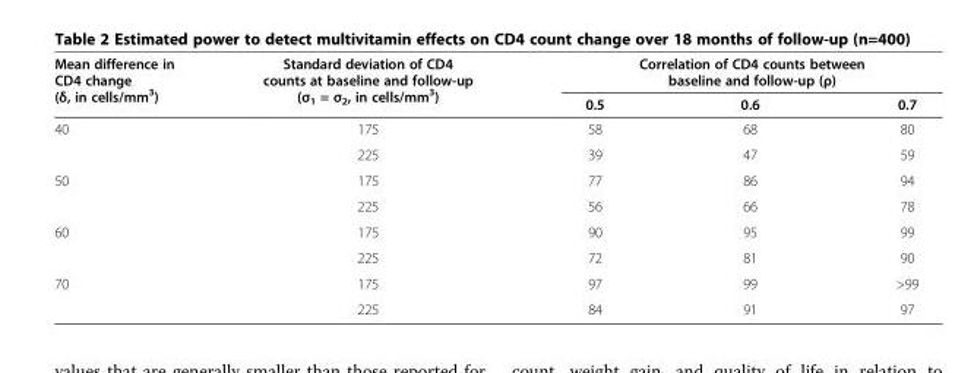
<table><thead><tr><td rowspan="2">Mean difference in CD4 change (δ, in cells/mm<sup>3</sup>)</td><td rowspan="2">Standard deviation of CD4 counts at baseline and follow-up (σ<sub>1</sub> = σ<sub>2</sub>, in cells/mm<sup>3</sup>)</td><td rowspan="2">0.5</td><td rowspan="2">Correlation of CD4 counts between baseline and follow-up (ρ) 0.6</td><td rowspan="2">0.7</td></tr><tr></tr></thead><tbody><tr><td rowspan="2">40</td><td>175</td><td>58</td><td>68</td><td>80</td></tr><tr><td>225</td><td>39</td><td>47</td><td>59</td></tr><tr><td rowspan="2">50</td><td>175</td><td>77</td><td>86</td><td>94</td></tr><tr><td>225</td><td>56</td><td>66</td><td>78</td></tr><tr><td rowspan="2">60</td><td>175</td><td>90</td><td>95</td><td>99</td></tr><tr><td>225</td><td>72</td><td>81</td><td>90</td></tr><tr><td rowspan="2">70</td><td>175</td><td>97</td><td>99</td><td>&gt;99</td></tr><tr><td>225</td><td>84</td><td>91</td><td>97</td></tr></tbody></table>